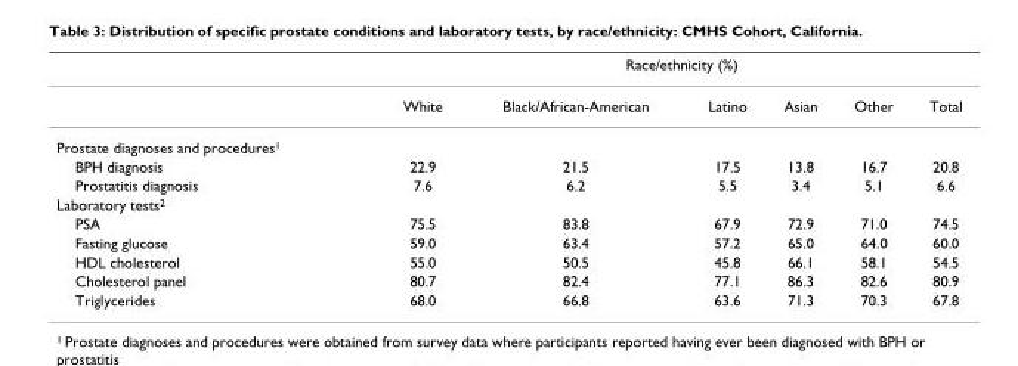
<table><thead><tr><td rowspan="2"></td><td colspan="6">Race/ethnicity (%)</td></tr><tr><td>White</td><td>Black/African-American</td><td>Latino</td><td>Asian</td><td>Other</td><td>Total</td></tr></thead><tbody><tr><td colspan="7">Prostate diagnoses and procedures1</td></tr><tr><td>BPH diagnosis</td><td>22.9</td><td>21.5</td><td>17.5</td><td>13.8</td><td>16.7</td><td>20.8</td></tr><tr><td>Prostatitis diagnosis</td><td>7.6</td><td>6.2</td><td>5.5</td><td>3.4</td><td>5.1</td><td>6.6</td></tr><tr><td colspan="7">Laboratory tests2</td></tr><tr><td>PSA</td><td>75.5</td><td>83.8</td><td>67.9</td><td>72.9</td><td>71.0</td><td>74.5</td></tr><tr><td>Fasting glucose</td><td>59.0</td><td>63.4</td><td>57.2</td><td>65.0</td><td>64.0</td><td>60.0</td></tr><tr><td>HDL cholesterol</td><td>55.0</td><td>50.5</td><td>45.8</td><td>66.1</td><td>58.1</td><td>54.5</td></tr><tr><td>Cholesterol panel</td><td>80.7</td><td>82.4</td><td>77.1</td><td>86.3</td><td>82.6</td><td>80.9</td></tr><tr><td>Triglycerides</td><td>68.0</td><td>66.8</td><td>63.6</td><td>71.3</td><td>70.3</td><td>67.8</td></tr></tbody></table>